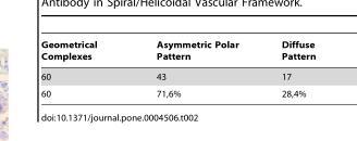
<table><thead><tr><td>Geometrical Complexes</td><td>Asymmetric Polar Pattern</td><td>Diffuse Pattern</td></tr></thead><tbody><tr><td>60</td><td>43</td><td>17</td></tr><tr><td>60</td><td>71,6%</td><td>28,4%</td></tr></tbody></table>